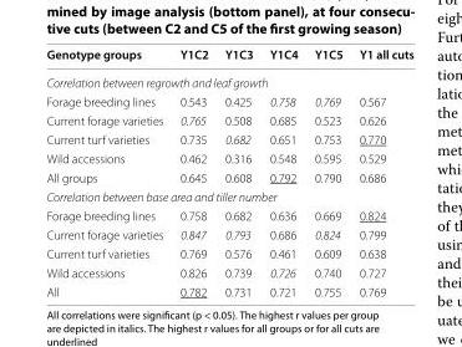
<table><thead><tr><td>Genotype groups</td><td>Y1C2</td><td>Y1C3</td><td>Y1C4</td><td>Y1C5</td><td>Y1 all cuts</td></tr></thead><tbody><tr><td colspan="6">Correlation between regrowth and leaf growth</td></tr><tr><td>Forage breeding lines</td><td>0.543</td><td>0.425</td><td>0.758</td><td>0.769</td><td>0.567</td></tr><tr><td>Current forage varieties</td><td>0.765</td><td>0.508</td><td>0.685</td><td>0.523</td><td>0.626</td></tr><tr><td>Current turf varieties</td><td>0.735</td><td>0.682</td><td>0.651</td><td>0.753</td><td>0.770</td></tr><tr><td>Wild accessions</td><td>0.462</td><td>0.316</td><td>0.548</td><td>0.595</td><td>0.529</td></tr><tr><td>All groups</td><td>0.645</td><td>0.608</td><td>0.792</td><td>0.790</td><td>0.686</td></tr><tr><td colspan="6">Correlation between base area and tiller number</td></tr><tr><td>Forage breeding lines</td><td>0.758</td><td>0.682</td><td>0.636</td><td>0.669</td><td>0.824</td></tr><tr><td>Current forage varieties</td><td>0.847</td><td>0.793</td><td>0.686</td><td>0.824</td><td>0.799</td></tr><tr><td>Current turf varieties</td><td>0.769</td><td>0.576</td><td>0.461</td><td>0.609</td><td>0.638</td></tr><tr><td>Wild accessions</td><td>0.826</td><td>0.739</td><td>0.726</td><td>0.740</td><td>0.727</td></tr><tr><td>All</td><td>0.782</td><td>0.731</td><td>0.721</td><td>0.755</td><td>0.769</td></tr></tbody></table>